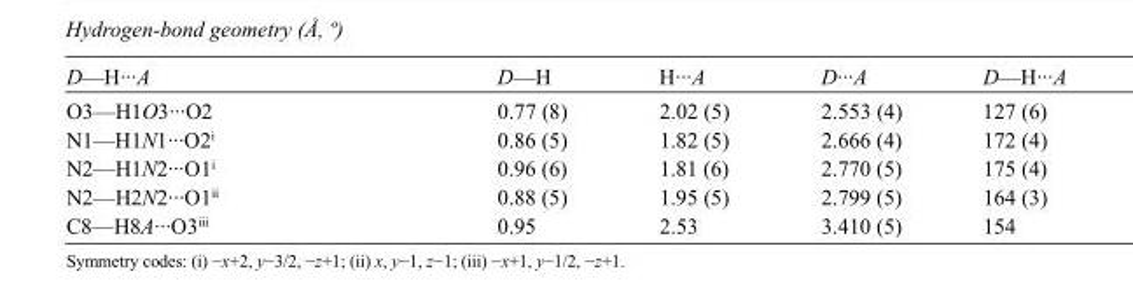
<table><tbody><tr><td>D—H···A</td><td>D—H</td><td>H···A</td><td>D···A</td><td>D—H···A</td></tr><tr><td>O3—H1O3···O2</td><td>0.77 (8)</td><td>2.02 (5)</td><td>2.553 (4)</td><td>127 (6)</td></tr><tr><td>N1—H1N1···O2<sup>i</sup></td><td>0.86 (5)</td><td>1.82 (5)</td><td>2.666 (4)</td><td>172 (4)</td></tr><tr><td>N2—H1N2···O1<sup>i</sup></td><td>0.96 (6)</td><td>1.81 (6)</td><td>2.770 (5)</td><td>175 (4)</td></tr><tr><td>N2—H2N2···O1<sup>ii</sup></td><td>0.88 (5)</td><td>1.95 (5)</td><td>2.799 (5)</td><td>164 (3)</td></tr><tr><td>C8—H8A···O3<sup>iii</sup></td><td>0.95</td><td>2.53</td><td>3.410 (5)</td><td>154</td></tr></tbody></table>